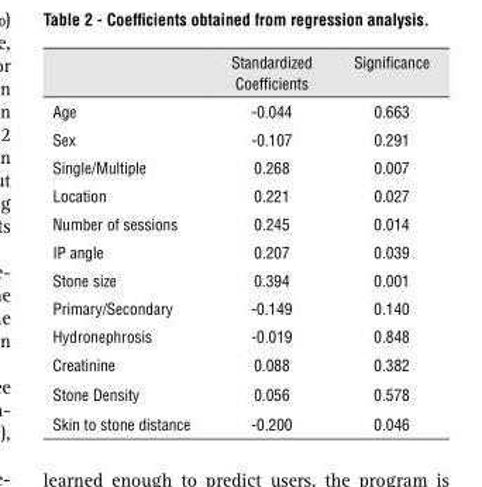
<table><thead><tr><td></td><td>Standardized Coefficients</td><td>Significance</td></tr></thead><tbody><tr><td>Age</td><td>-0.044</td><td>0.663</td></tr><tr><td>Sex</td><td>-0.107</td><td>0.291</td></tr><tr><td>Single/Multiple</td><td>0.268</td><td>0.007</td></tr><tr><td>Location</td><td>0.221</td><td>0.027</td></tr><tr><td>Number of sessions</td><td>0.245</td><td>0.014</td></tr><tr><td>IP angle</td><td>0.207</td><td>0.039</td></tr><tr><td>Stone size</td><td>0.394</td><td>0.001</td></tr><tr><td>Primary/Secondary</td><td>-0.149</td><td>0.140</td></tr><tr><td>Hydronephrosis</td><td>-0.019</td><td>0.848</td></tr><tr><td>Creatinine</td><td>0.088</td><td>0.382</td></tr><tr><td>Stone Density</td><td>0.056</td><td>0.578</td></tr><tr><td>Skin to stone distance</td><td>-0.200</td><td>0.046</td></tr></tbody></table>